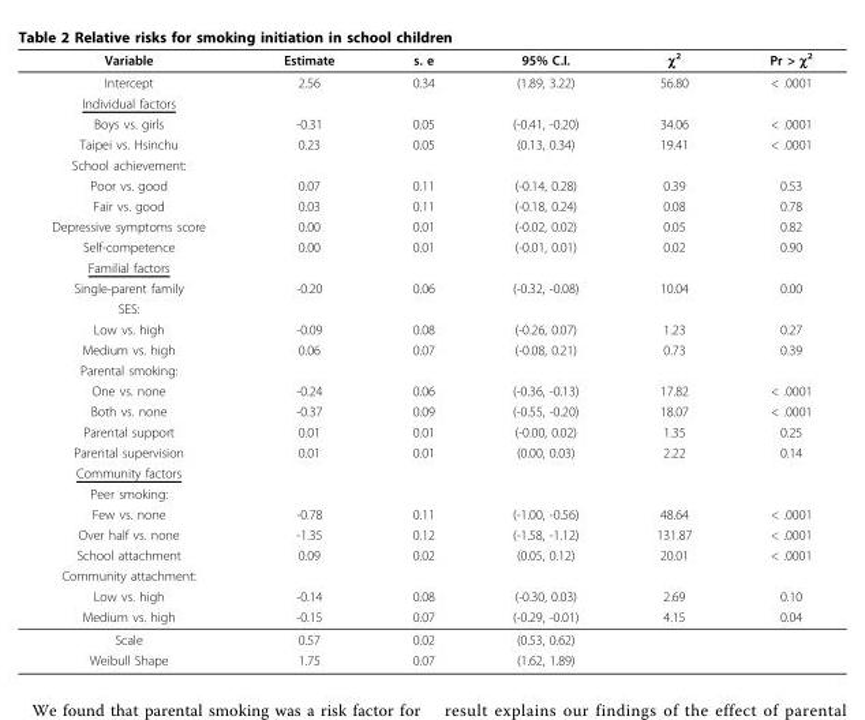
<table><thead><tr><td>Variable</td><td>Estimate</td><td>s. e</td><td>95% C.I.</td><td>χ<sup>2</sup></td><td>Pr &gt; χ<sup>2</sup></td></tr></thead><tbody><tr><td>Intercept</td><td>2.56</td><td>0.34</td><td>(1.89, 3.22)</td><td>56.80</td><td>&lt; .0001</td></tr><tr><td colspan="6">Individual factors</td></tr><tr><td>Boys vs. girls</td><td>-0.31</td><td>0.05</td><td>(-0.41, -0.20)</td><td>34.06</td><td>&lt; .0001</td></tr><tr><td>Taipei vs. Hsinchu</td><td>0.23</td><td>0.05</td><td>(0.13, 0.34)</td><td>19.41</td><td>&lt; .0001</td></tr><tr><td colspan="6">School achievement:</td></tr><tr><td>Poor vs. good</td><td>0.07</td><td>0.11</td><td>(-0.14, 0.28)</td><td>0.39</td><td>0.53</td></tr><tr><td>Fair vs. good</td><td>0.03</td><td>0.11</td><td>(-0.18, 0.24)</td><td>0.08</td><td>0.78</td></tr><tr><td>Depressive symptoms score</td><td>0.00</td><td>0.01</td><td>(-0.02, 0.02)</td><td>0.05</td><td>0.82</td></tr><tr><td>Self-competence</td><td>0.00</td><td>0.01</td><td>(-0.01, 0.01)</td><td>0.02</td><td>0.90</td></tr><tr><td colspan="6">Familial factors</td></tr><tr><td>Single-parent family</td><td>-0.20</td><td>0.06</td><td>(-0.32, -0.08)</td><td>10.04</td><td>0.00</td></tr><tr><td colspan="6">SES:</td></tr><tr><td>Low vs. high</td><td>-0.09</td><td>0.08</td><td>(-0.26, 0.07)</td><td>1.23</td><td>0.27</td></tr><tr><td>Medium vs. high</td><td>0.06</td><td>0.07</td><td>(-0.08, 0.21)</td><td>0.73</td><td>0.39</td></tr><tr><td colspan="6">Parental smoking:</td></tr><tr><td>One vs. none</td><td>-0.24</td><td>0.06</td><td>(-0.36, -0.13)</td><td>17.82</td><td>&lt; .0001</td></tr><tr><td>Both vs. none</td><td>-0.37</td><td>0.09</td><td>(-0.55, -0.20)</td><td>18.07</td><td>&lt; .0001</td></tr><tr><td>Parental support</td><td>0.01</td><td>0.01</td><td>(-0.00, 0.02)</td><td>1.35</td><td>0.25</td></tr><tr><td>Parental supervision</td><td>0.01</td><td>0.01</td><td>(0.00, 0.03)</td><td>2.22</td><td>0.14</td></tr><tr><td colspan="6">Community factors</td></tr><tr><td colspan="6">Peer smoking:</td></tr><tr><td>Few vs. none</td><td>-0.78</td><td>0.11</td><td>(-1.00, -0.56)</td><td>48.64</td><td>&lt; .0001</td></tr><tr><td>Over half vs. none</td><td>-1.35</td><td>0.12</td><td>(-1.58, -1.12)</td><td>131.87</td><td>&lt; .0001</td></tr><tr><td>School attachment</td><td>0.09</td><td>0.02</td><td>(0.05, 0.12)</td><td>20.01</td><td>&lt; .0001</td></tr><tr><td colspan="6">Community attachment:</td></tr><tr><td>Low vs. high</td><td>-0.14</td><td>0.08</td><td>(-0.30, 0.03)</td><td>2.69</td><td>0.10</td></tr><tr><td>Medium vs. high</td><td>-0.15</td><td>0.07</td><td>(-0.29, -0.01)</td><td>4.15</td><td>0.04</td></tr><tr><td>Scale</td><td>0.57</td><td>0.02</td><td>(0.53, 0.62)</td><td></td><td></td></tr><tr><td>Weibull Shape</td><td>1.75</td><td>0.07</td><td>(1.62, 1.89)</td><td></td><td></td></tr></tbody></table>